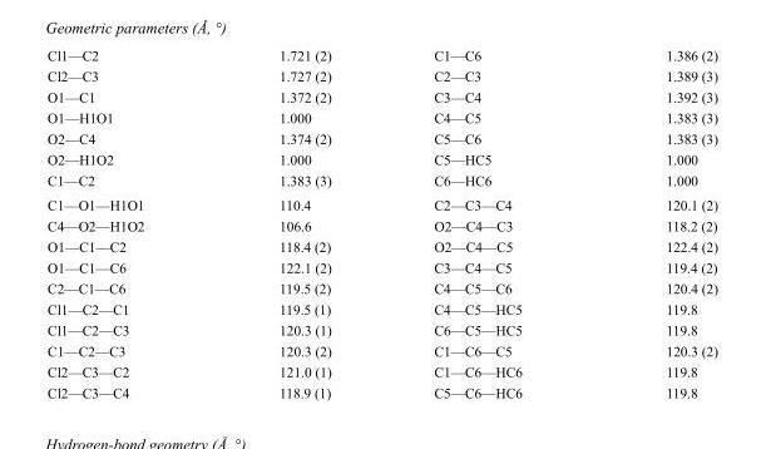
<table><tbody><tr><td>Cl1—C2</td><td>1.721 (2)</td><td>C1—C6</td><td>1.386 (2)</td></tr><tr><td>Cl2—C3</td><td>1.727 (2)</td><td>C2—C3</td><td>1.389 (3)</td></tr><tr><td>O1—C1</td><td>1.372 (2)</td><td>C3—C4</td><td>1.392 (3)</td></tr><tr><td>O1—H1O1</td><td>1.000</td><td>C4—C5</td><td>1.383 (3)</td></tr><tr><td>O2—C4</td><td>1.374 (2)</td><td>C5—C6</td><td>1.383 (3)</td></tr><tr><td>O2—H1O2</td><td>1.000</td><td>C5—HC5</td><td>1.000</td></tr><tr><td>C1—C2</td><td>1.383 (3)</td><td>C6—HC6</td><td>1.000</td></tr><tr><td>C1—O1—H1O1</td><td>110.4</td><td>C2—C3—C4</td><td>120.1 (2)</td></tr><tr><td>C4—O2—H1O2</td><td>106.6</td><td>O2—C4—C3</td><td>118.2 (2)</td></tr><tr><td>O1—C1—C2</td><td>118.4 (2)</td><td>O2—C4—C5</td><td>122.4 (2)</td></tr><tr><td>O1—C1—C6</td><td>122.1 (2)</td><td>C3—C4—C5</td><td>119.4 (2)</td></tr><tr><td>C2—C1—C6</td><td>119.5 (2)</td><td>C4—C5—C6</td><td>120.4 (2)</td></tr><tr><td>Cl1—C2—C1</td><td>119.5 (1)</td><td>C4—C5—HC5</td><td>119.8</td></tr><tr><td>Cl1—C2—C3</td><td>120.3 (1)</td><td>C6—C5—HC5</td><td>119.8</td></tr><tr><td>C1—C2—C3</td><td>120.3 (2)</td><td>C1—C6—C5</td><td>120.3 (2)</td></tr><tr><td>Cl2—C3—C2</td><td>121.0 (1)</td><td>C1—C6—HC6</td><td>119.8</td></tr><tr><td>Cl2—C3—C4</td><td>118.9 (1)</td><td>C5—C6—HC6</td><td>119.8</td></tr></tbody></table>